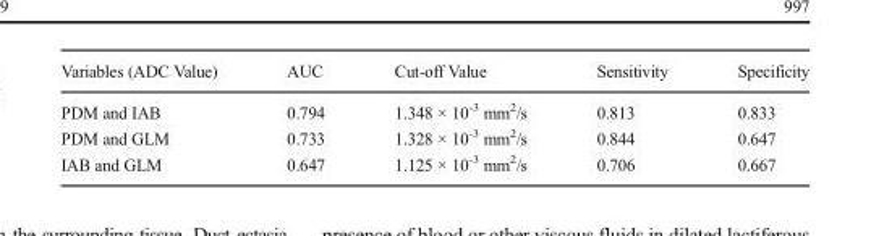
<table><thead><tr><td>Variables (ADC Value)</td><td>AUC</td><td>Cut-off Value</td><td>Sensitivity</td><td>Specificity</td></tr></thead><tbody><tr><td>PDM and IAB</td><td>0.794</td><td>1.348 × 10<sup>-3</sup> mm<sup>2</sup>/s</td><td>0.813</td><td>0.833</td></tr><tr><td>PDM and GLM</td><td>0.733</td><td>1.328 × 10<sup>-3</sup> mm<sup>2</sup>/s</td><td>0.844</td><td>0.647</td></tr><tr><td>IAB and GLM</td><td>0.647</td><td>1.125 × 10<sup>-3</sup> mm<sup>2</sup>/s</td><td>0.706</td><td>0.667</td></tr></tbody></table>